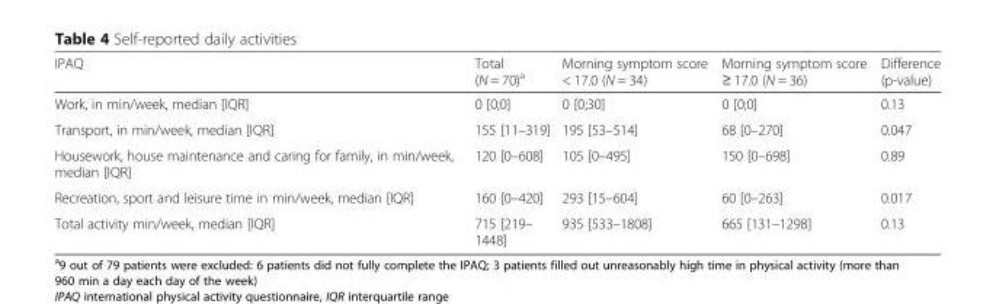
<table><thead><tr><td>IPAQ</td><td>Total (N = 70)<sup>a</sup></td><td>Morning symptom score &lt; 17.0 (N = 34)</td><td>Morning symptom score ≥ 17.0 (N = 36)</td><td>Difference (p-value)</td></tr></thead><tbody><tr><td>Work, in min/week, median [IQR]</td><td>0 [0;0]</td><td>0 [0;30]</td><td>0 [0;0]</td><td>0.13</td></tr><tr><td>Transport, in min/week, median [IQR]</td><td>155 [11–319]</td><td>195 [53–514]</td><td>68 [0–270]</td><td>0.047</td></tr><tr><td>Housework, house maintenance and caring for family, in min/week, median [IQR]</td><td>120 [0–608]</td><td>105 [0–495]</td><td>150 [0–698]</td><td>0.89</td></tr><tr><td>Recreation, sport and leisure time in min/week, median [IQR]</td><td>160 [0–420]</td><td>293 [15–604]</td><td>60 [0–263]</td><td>0.017</td></tr><tr><td>Total activity min/week, median [IQR]</td><td>715 [219– 1448]</td><td>935 [533–1808]</td><td>665 [131–1298]</td><td>0.13</td></tr></tbody></table>